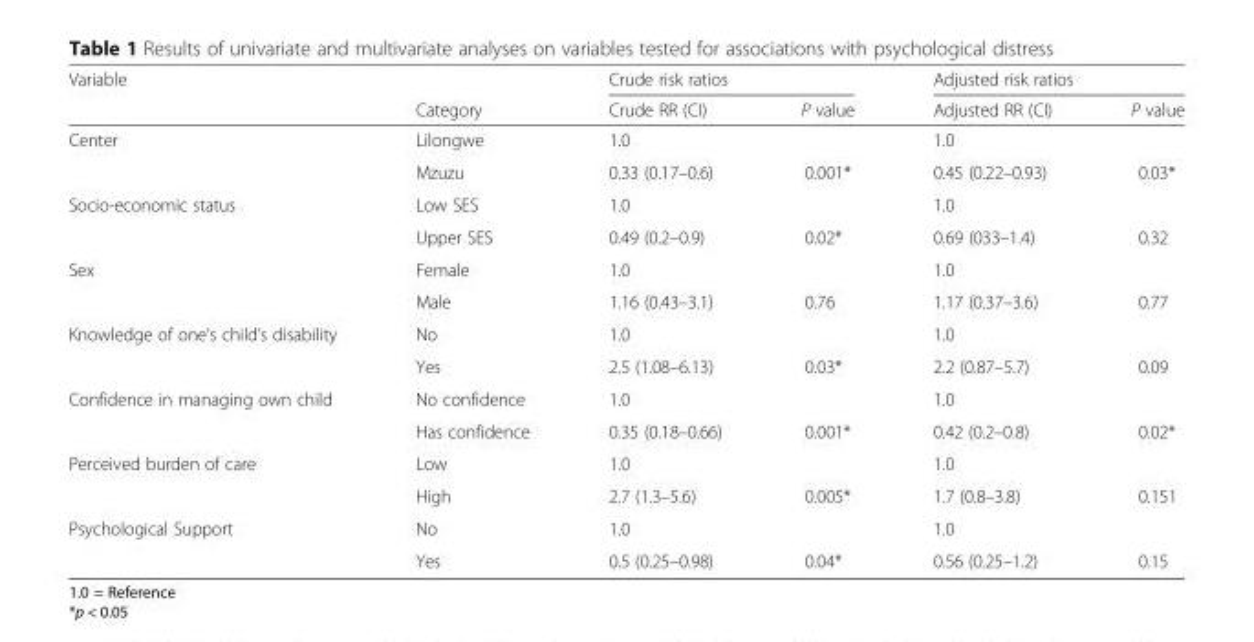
<table><thead><tr><td rowspan="2">Variable</td><td rowspan="2">Category</td><td colspan="2">Crude risk ratios</td><td colspan="2">Adjusted risk ratios</td></tr><tr><td>Crude RR (CI)</td><td>P value</td><td>Adjusted RR (CI)</td><td>P value</td></tr></thead><tbody><tr><td rowspan="2">Center</td><td>Lilongwe</td><td>1.0</td><td></td><td>1.0</td><td></td></tr><tr><td>Mzuzu</td><td>0.33 (0.17–0.6)</td><td>0.001*</td><td>0.45 (0.22–0.93)</td><td>0.03*</td></tr><tr><td rowspan="2">Socio-economic status</td><td>Low SES</td><td>1.0</td><td></td><td>1.0</td><td></td></tr><tr><td>Upper SES</td><td>0.49 (0.2–0.9)</td><td>0.02*</td><td>0.69 (033–1.4)</td><td>0.32</td></tr><tr><td rowspan="2">Sex</td><td>Female</td><td>1.0</td><td></td><td>1.0</td><td></td></tr><tr><td>Male</td><td>1.16 (0.43–3.1)</td><td>0.76</td><td>1.17 (0.37–3.6)</td><td>0.77</td></tr><tr><td rowspan="2">Knowledge of one’s child’s disability</td><td>No</td><td>1.0</td><td></td><td>1.0</td><td></td></tr><tr><td>Yes</td><td>2.5 (1.08–6.13)</td><td>0.03*</td><td>2.2 (0.87–5.7)</td><td>0.09</td></tr><tr><td rowspan="2">Confidence in managing own child</td><td>No confidence</td><td>1.0</td><td></td><td>1.0</td><td></td></tr><tr><td>Has confidence</td><td>0.35 (0.18–0.66)</td><td>0.001*</td><td>0.42 (0.2–0.8)</td><td>0.02*</td></tr><tr><td rowspan="2">Perceived burden of care</td><td>Low</td><td>1.0</td><td></td><td>1.0</td><td></td></tr><tr><td>High</td><td>2.7 (1.3–5.6)</td><td>0.005*</td><td>1.7 (0.8–3.8)</td><td>0.151</td></tr><tr><td rowspan="2">Psychological Support</td><td>No</td><td>1.0</td><td></td><td>1.0</td><td></td></tr><tr><td>Yes</td><td>0.5 (0.25–0.98)</td><td>0.04*</td><td>0.56 (0.25–1.2)</td><td>0.15</td></tr></tbody></table>